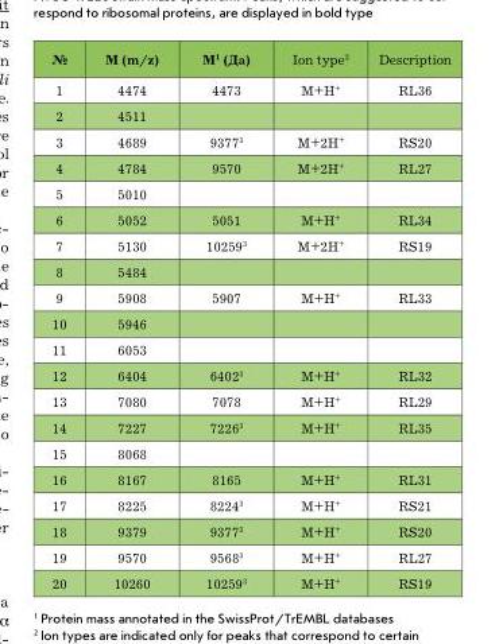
<table><thead><tr><td>№</td><td>M (m/z)</td><td>M1 (Да)</td><td>Ion type<sup>2</sup></td><td>Description</td></tr></thead><tbody><tr><td>1</td><td>4474</td><td>4473</td><td>M+H<sup>+</sup></td><td>rL36</td></tr><tr><td>2</td><td>4511</td><td></td><td></td><td></td></tr><tr><td>3</td><td>4689</td><td>9377<sup>3</sup></td><td>M+2H<sup>+</sup></td><td>rS20</td></tr><tr><td>4</td><td>4784</td><td>9570</td><td>M+2H<sup>+</sup></td><td>rL27</td></tr><tr><td>5</td><td>5010</td><td></td><td></td><td></td></tr><tr><td>6</td><td>5052</td><td>5051</td><td>M+H<sup>+</sup></td><td>rL34</td></tr><tr><td>7</td><td>5130</td><td>10259<sup>3</sup></td><td>M+2H<sup>+</sup></td><td>rS19</td></tr><tr><td>8</td><td>5484</td><td></td><td></td><td></td></tr><tr><td>9</td><td>5908</td><td>5907</td><td>M+H<sup>+</sup></td><td>rL33</td></tr><tr><td>10</td><td>5946</td><td></td><td></td><td></td></tr><tr><td>11</td><td>6053</td><td></td><td></td><td></td></tr><tr><td>12</td><td>6404</td><td>6402<sup>3</sup></td><td>M+H<sup>+</sup></td><td>rL32</td></tr><tr><td>13</td><td>7080</td><td>7078</td><td>M+H<sup>+</sup></td><td>rL29</td></tr><tr><td>14</td><td>7227</td><td>7226<sup>3</sup></td><td>M+H<sup>+</sup></td><td>rL35</td></tr><tr><td>15</td><td>8068</td><td></td><td></td><td></td></tr><tr><td>16</td><td>8167</td><td>8165</td><td>M+H<sup>+</sup></td><td>rL31</td></tr><tr><td>17</td><td>8225</td><td>8224<sup>3</sup></td><td>M+H<sup>+</sup></td><td>rS21</td></tr><tr><td>18</td><td>9379</td><td>9377<sup>3</sup></td><td>M+H<sup>+</sup></td><td>rS20</td></tr><tr><td>19</td><td>9570</td><td>9568<sup>3</sup></td><td>M+H<sup>+</sup></td><td>rL27</td></tr><tr><td>20</td><td>10260</td><td>10259<sup>3</sup></td><td>M+H<sup>+</sup></td><td>rS19</td></tr></tbody></table>